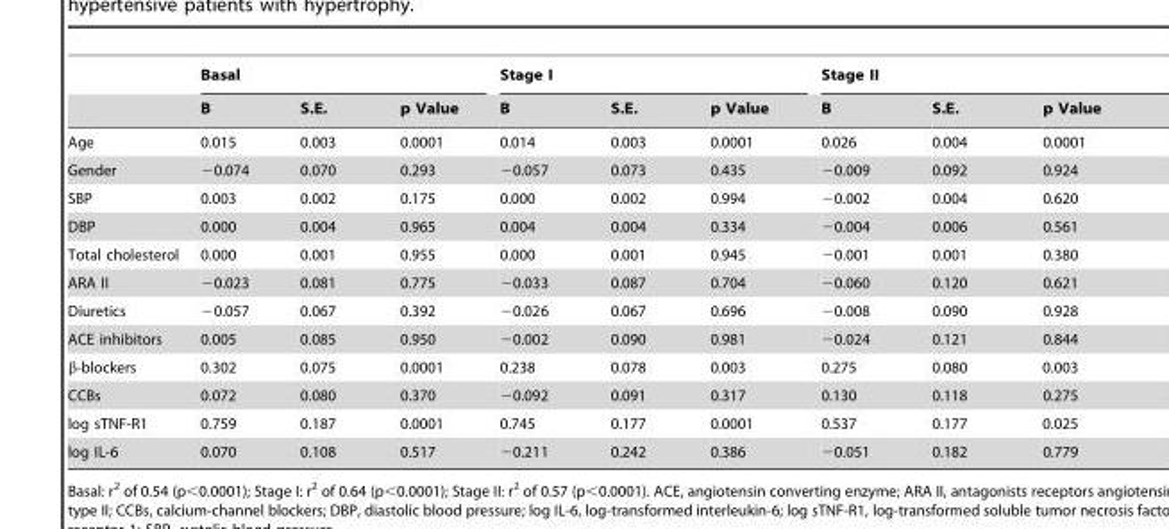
<table><thead><tr><td rowspan="2"></td><td colspan="3">Basal</td><td colspan="3">Stage I</td><td colspan="3">Stage II</td></tr><tr><td>B</td><td>S.E.</td><td>p Value</td><td>B</td><td>S.E.</td><td>p Value</td><td>B</td><td>S.E.</td><td>p Value</td></tr></thead><tbody><tr><td>Age</td><td>0.015</td><td>0.003</td><td>0.0001</td><td>0.014</td><td>0.003</td><td>0.0001</td><td>0.026</td><td>0.004</td><td>0.0001</td></tr><tr><td>Gender</td><td>−0.074</td><td>0.070</td><td>0.293</td><td>−0.057</td><td>0.073</td><td>0.435</td><td>−0.009</td><td>0.092</td><td>0.924</td></tr><tr><td>SBP</td><td>0.003</td><td>0.002</td><td>0.175</td><td>0.000</td><td>0.002</td><td>0.994</td><td>−0.002</td><td>0.004</td><td>0.620</td></tr><tr><td>DBP</td><td>0.000</td><td>0.004</td><td>0.965</td><td>0.004</td><td>0.004</td><td>0.334</td><td>−0.004</td><td>0.006</td><td>0.561</td></tr><tr><td>Total cholesterol</td><td>0.000</td><td>0.001</td><td>0.955</td><td>0.000</td><td>0.001</td><td>0.945</td><td>−0.001</td><td>0.001</td><td>0.380</td></tr><tr><td>ARA II</td><td>−0.023</td><td>0.081</td><td>0.775</td><td>−0.033</td><td>0.087</td><td>0.704</td><td>−0.060</td><td>0.120</td><td>0.621</td></tr><tr><td>Diuretics</td><td>−0.057</td><td>0.067</td><td>0.392</td><td>−0.026</td><td>0.067</td><td>0.696</td><td>−0.008</td><td>0.090</td><td>0.928</td></tr><tr><td>ACE inhibitors</td><td>0.005</td><td>0.085</td><td>0.950</td><td>−0.002</td><td>0.090</td><td>0.981</td><td>−0.024</td><td>0.121</td><td>0.844</td></tr><tr><td>β-blockers</td><td>0.302</td><td>0.075</td><td>0.0001</td><td>0.238</td><td>0.078</td><td>0.003</td><td>0.275</td><td>0.080</td><td>0.003</td></tr><tr><td>CCBs</td><td>0.072</td><td>0.080</td><td>0.370</td><td>−0.092</td><td>0.091</td><td>0.317</td><td>0.130</td><td>0.118</td><td>0.275</td></tr><tr><td>log sTNF-R1</td><td>0.759</td><td>0.187</td><td>0.0001</td><td>0.745</td><td>0.177</td><td>0.0001</td><td>0.537</td><td>0.177</td><td>0.025</td></tr><tr><td>log IL-6</td><td>0.070</td><td>0.108</td><td>0.517</td><td>−0.211</td><td>0.242</td><td>0.386</td><td>−0.051</td><td>0.182</td><td>0.779</td></tr></tbody></table>